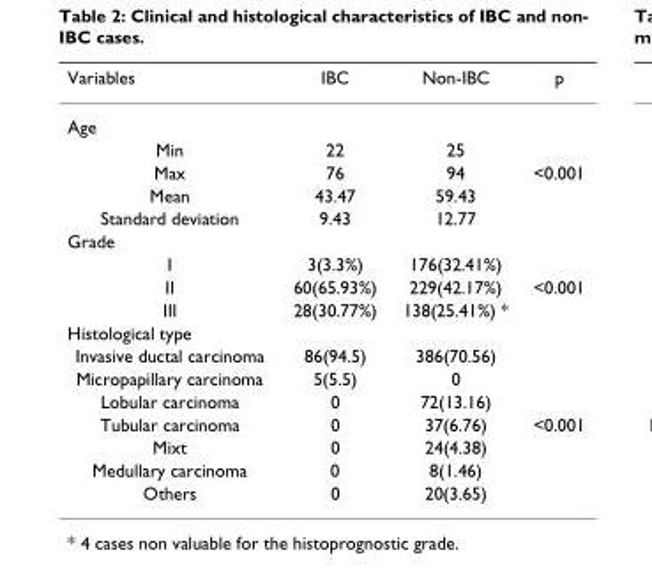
<table><thead><tr><td>Variables</td><td>IBC</td><td>Non-IBC</td><td>p</td></tr></thead><tbody><tr><td colspan="4">Age</td></tr><tr><td>Min</td><td>22</td><td>25</td><td></td></tr><tr><td>Max</td><td>76</td><td>94</td><td>&lt;0.001</td></tr><tr><td>Mean</td><td>43.47</td><td>59.43</td><td></td></tr><tr><td>Standard deviation</td><td>9.43</td><td>12.77</td><td></td></tr><tr><td colspan="4">Grade</td></tr><tr><td>I</td><td>3(3.3%)</td><td>176(32.41%)</td><td></td></tr><tr><td>II</td><td>60(65.93%)</td><td>229(42.17%)</td><td>&lt;0.001</td></tr><tr><td>III</td><td>28(30.77%)</td><td>138(25.41%) *</td><td></td></tr><tr><td colspan="4">Histological type</td></tr><tr><td>Invasive ductal carcinoma</td><td>86(94.5)</td><td>386(70.56)</td><td></td></tr><tr><td>Micropapillary carcinoma</td><td>5(5.5)</td><td>0</td><td></td></tr><tr><td>Lobular carcinoma</td><td>0</td><td>72(13.16)</td><td></td></tr><tr><td>Tubular carcinoma</td><td>0</td><td>37(6.76)</td><td>&lt;0.001</td></tr><tr><td>Mixt</td><td>0</td><td>24(4.38)</td><td></td></tr><tr><td>Medullary carcinoma</td><td>0</td><td>8(1.46)</td><td></td></tr><tr><td>Others</td><td>0</td><td>20(3.65)</td><td></td></tr></tbody></table>